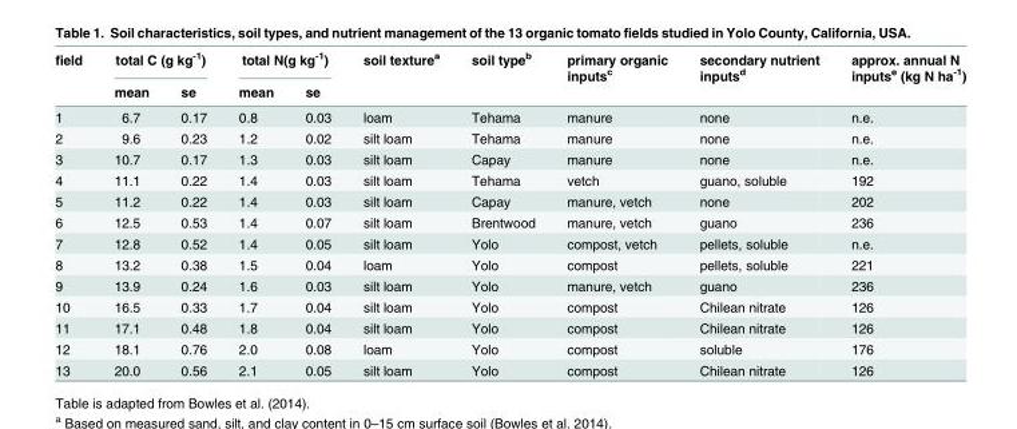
<table><thead><tr><td rowspan="2">field</td><td colspan="2">total C (g kg<sup>-1</sup>)</td><td colspan="2">total N(g kg<sup>-1</sup>)</td><td rowspan="2">soil texture<sup>a</sup></td><td rowspan="2">soil type<sup>b</sup></td><td rowspan="2">primary organic inputs<sup>c</sup></td><td rowspan="2">secondary nutrient inputs<sup>d</sup></td><td rowspan="2">approx. annual N inputs<sup>e</sup> (kg N ha<sup>-1</sup>)</td></tr><tr><td>mean</td><td>se</td><td>mean</td><td>se</td></tr></thead><tbody><tr><td>1</td><td>6.7</td><td>0.17</td><td>0.8</td><td>0.03</td><td>loam</td><td>Tehama</td><td>manure</td><td>none</td><td>n.e.</td></tr><tr><td>2</td><td>9.6</td><td>0.23</td><td>1.2</td><td>0.02</td><td>silt loam</td><td>Tehama</td><td>manure</td><td>none</td><td>n.e.</td></tr><tr><td>3</td><td>10.7</td><td>0.17</td><td>1.3</td><td>0.03</td><td>silt loam</td><td>Capay</td><td>manure</td><td>none</td><td>n.e.</td></tr><tr><td>4</td><td>11.1</td><td>0.22</td><td>1.4</td><td>0.03</td><td>silt loam</td><td>Tehama</td><td>vetch</td><td>guano, soluble</td><td>192</td></tr><tr><td>5</td><td>11.2</td><td>0.22</td><td>1.4</td><td>0.03</td><td>silt loam</td><td>Capay</td><td>manure, vetch</td><td>none</td><td>202</td></tr><tr><td>6</td><td>12.5</td><td>0.53</td><td>1.4</td><td>0.07</td><td>silt loam</td><td>Brentwood</td><td>manure, vetch</td><td>guano</td><td>236</td></tr><tr><td>7</td><td>12.8</td><td>0.52</td><td>1.4</td><td>0.05</td><td>silt loam</td><td>Yolo</td><td>compost, vetch</td><td>pellets, soluble</td><td>n.e.</td></tr><tr><td>8</td><td>13.2</td><td>0.38</td><td>1.5</td><td>0.04</td><td>loam</td><td>Yolo</td><td>compost</td><td>pellets, soluble</td><td>221</td></tr><tr><td>9</td><td>13.9</td><td>0.24</td><td>1.6</td><td>0.03</td><td>silt loam</td><td>Yolo</td><td>manure, vetch</td><td>guano</td><td>236</td></tr><tr><td>10</td><td>16.5</td><td>0.33</td><td>1.7</td><td>0.04</td><td>silt loam</td><td>Yolo</td><td>compost</td><td>Chilean nitrate</td><td>126</td></tr><tr><td>11</td><td>17.1</td><td>0.48</td><td>1.8</td><td>0.04</td><td>silt loam</td><td>Yolo</td><td>compost</td><td>Chilean nitrate</td><td>126</td></tr><tr><td>12</td><td>18.1</td><td>0.76</td><td>2.0</td><td>0.08</td><td>loam</td><td>Yolo</td><td>compost</td><td>soluble</td><td>176</td></tr><tr><td>13</td><td>20.0</td><td>0.56</td><td>2.1</td><td>0.05</td><td>silt loam</td><td>Yolo</td><td>compost</td><td>Chilean nitrate</td><td>126</td></tr></tbody></table>